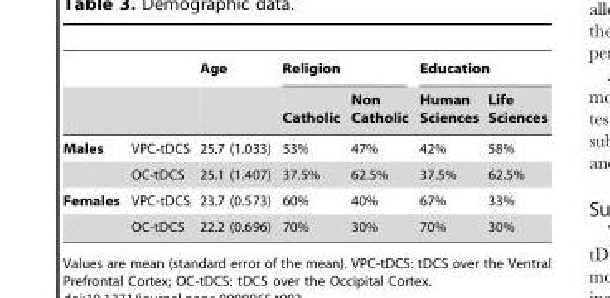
<table><thead><tr><td rowspan="2"></td><td rowspan="2"></td><td rowspan="2">Age</td><td colspan="2">Religion</td><td colspan="2">Education</td></tr><tr><td>Catholic</td><td>Non Catholic</td><td>Human Sciences</td><td>Life Sciences</td></tr></thead><tbody><tr><td rowspan="2">Males</td><td>VPC-tDCS</td><td>25.7 (1.033)</td><td>53%</td><td>47%</td><td>42%</td><td>58%</td></tr><tr><td>OC-tDCS</td><td>25.1 (1.407)</td><td>37.5%</td><td>62.5%</td><td>37.5%</td><td>62.5%</td></tr><tr><td rowspan="2">Females</td><td>VPC-tDCS</td><td>23.7 (0.573)</td><td>60%</td><td>40%</td><td>67%</td><td>33%</td></tr><tr><td>OC-tDCS</td><td>22.2 (0.696)</td><td>70%</td><td>30%</td><td>70%</td><td>30%</td></tr></tbody></table>